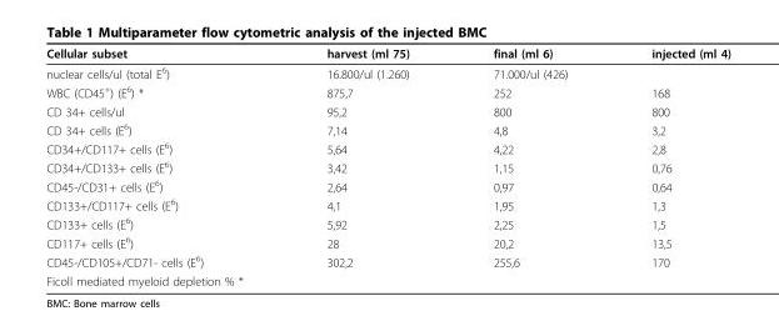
<table><thead><tr><td>Cellular subset</td><td>harvest (ml 75)</td><td>final (ml 6)</td><td>injected (ml 4)</td></tr></thead><tbody><tr><td>nuclear cells/ul (total E<sup>6</sup>)</td><td>16.800/ul (1.260)</td><td>71.000/ul (426)</td><td></td></tr><tr><td>WBC (CD45<sup>+</sup>) (E<sup>6</sup>) *</td><td>875,7</td><td>252</td><td>168</td></tr><tr><td>CD 34+ cells/ul</td><td>95,2</td><td>800</td><td>800</td></tr><tr><td>CD 34+ cells (E<sup>6</sup>)</td><td>7,14</td><td>4,8</td><td>3,2</td></tr><tr><td>CD34+/CD117+ cells (E<sup>6</sup>)</td><td>5,64</td><td>4,22</td><td>2,8</td></tr><tr><td>CD34+/CD133+ cells (E<sup>6</sup>)</td><td>3,42</td><td>1,15</td><td>0,76</td></tr><tr><td>CD45-/CD31+ cells (E<sup>6</sup>)</td><td>2,64</td><td>0,97</td><td>0,64</td></tr><tr><td>CD133+/CD117+ cells (E<sup>6</sup>)</td><td>4,1</td><td>1,95</td><td>1,3</td></tr><tr><td>CD133+ cells (E<sup>6</sup>)</td><td>5,92</td><td>2,25</td><td>1,5</td></tr><tr><td>CD117+ cells (E<sup>6</sup>)</td><td>28</td><td>20,2</td><td>13,5</td></tr><tr><td>CD45-/CD105+/CD71- cells (E<sup>6</sup>)</td><td>302,2</td><td>255,6</td><td>170</td></tr><tr><td>Ficoll mediated myeloid depletion % *</td><td></td><td></td><td></td></tr></tbody></table>